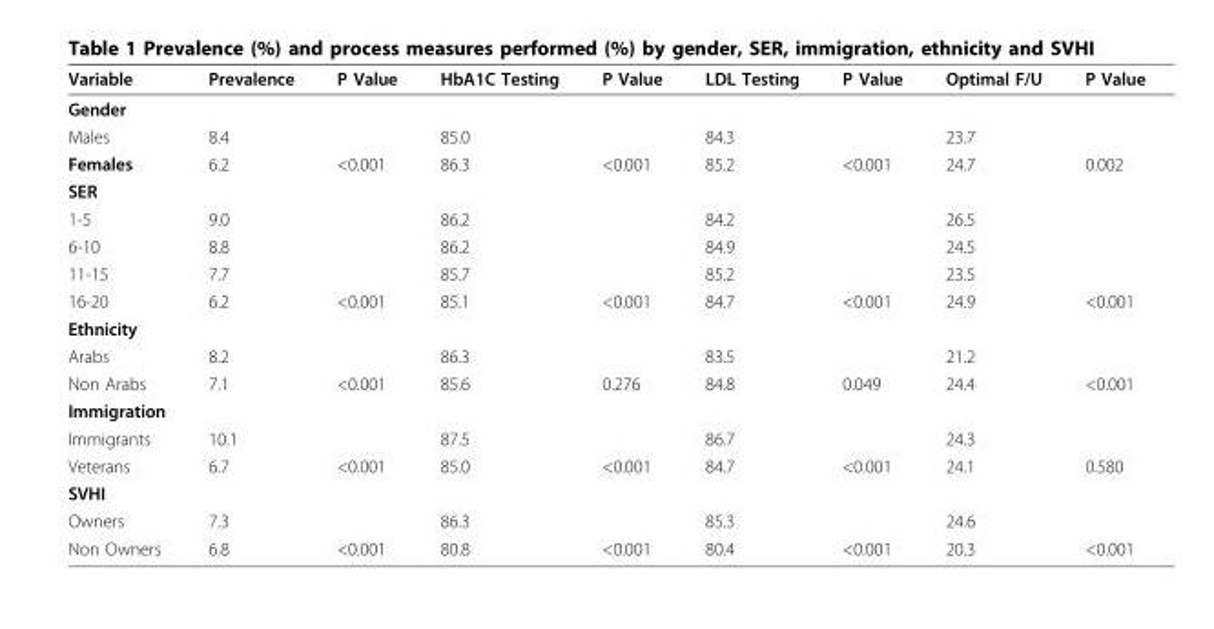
<table><thead><tr><td>Variable</td><td>Prevalence</td><td>P Value</td><td>HbA1C Testing</td><td>P Value</td><td>LDL Testing</td><td>P Value</td><td>Optimal F/U</td><td>P Value</td></tr></thead><tbody><tr><td colspan="9">Gender</td></tr><tr><td>Males</td><td>8.4</td><td></td><td>85.0</td><td></td><td>84.3</td><td></td><td>23.7</td><td></td></tr><tr><td>Females</td><td>6.2</td><td>&lt;0.001</td><td>86.3</td><td>&lt;0.001</td><td>85.2</td><td>&lt;0.001</td><td>24.7</td><td>0.002</td></tr><tr><td colspan="9">SER</td></tr><tr><td>1-5</td><td>9.0</td><td></td><td>86.2</td><td></td><td>84.2</td><td></td><td>26.5</td><td></td></tr><tr><td>6-10</td><td>8.8</td><td></td><td>86.2</td><td></td><td>84.9</td><td></td><td>24.5</td><td></td></tr><tr><td>11-15</td><td>7.7</td><td></td><td>85.7</td><td></td><td>85.2</td><td></td><td>23.5</td><td></td></tr><tr><td>16-20</td><td>6.2</td><td>&lt;0.001</td><td>85.1</td><td>&lt;0.001</td><td>84.7</td><td>&lt;0.001</td><td>24.9</td><td>&lt;0.001</td></tr><tr><td colspan="9">Ethnicity</td></tr><tr><td>Arabs</td><td>8.2</td><td></td><td>86.3</td><td></td><td>83.5</td><td></td><td>21.2</td><td></td></tr><tr><td>Non Arabs</td><td>7.1</td><td>&lt;0.001</td><td>85.6</td><td>0.276</td><td>84.8</td><td>0.049</td><td>24.4</td><td>&lt;0.001</td></tr><tr><td colspan="9">Immigration</td></tr><tr><td>Immigrants</td><td>10.1</td><td></td><td>87.5</td><td></td><td>86.7</td><td></td><td>24.3</td><td></td></tr><tr><td>Veterans</td><td>6.7</td><td>&lt;0.001</td><td>85.0</td><td>&lt;0.001</td><td>84.7</td><td>&lt;0.001</td><td>24.1</td><td>0.580</td></tr><tr><td colspan="9">SVHI</td></tr><tr><td>Owners</td><td>7.3</td><td></td><td>86.3</td><td></td><td>85.3</td><td></td><td>24.6</td><td></td></tr><tr><td>Non Owners</td><td>6.8</td><td>&lt;0.001</td><td>80.8</td><td>&lt;0.001</td><td>80.4</td><td>&lt;0.001</td><td>20.3</td><td>&lt;0.001</td></tr></tbody></table>